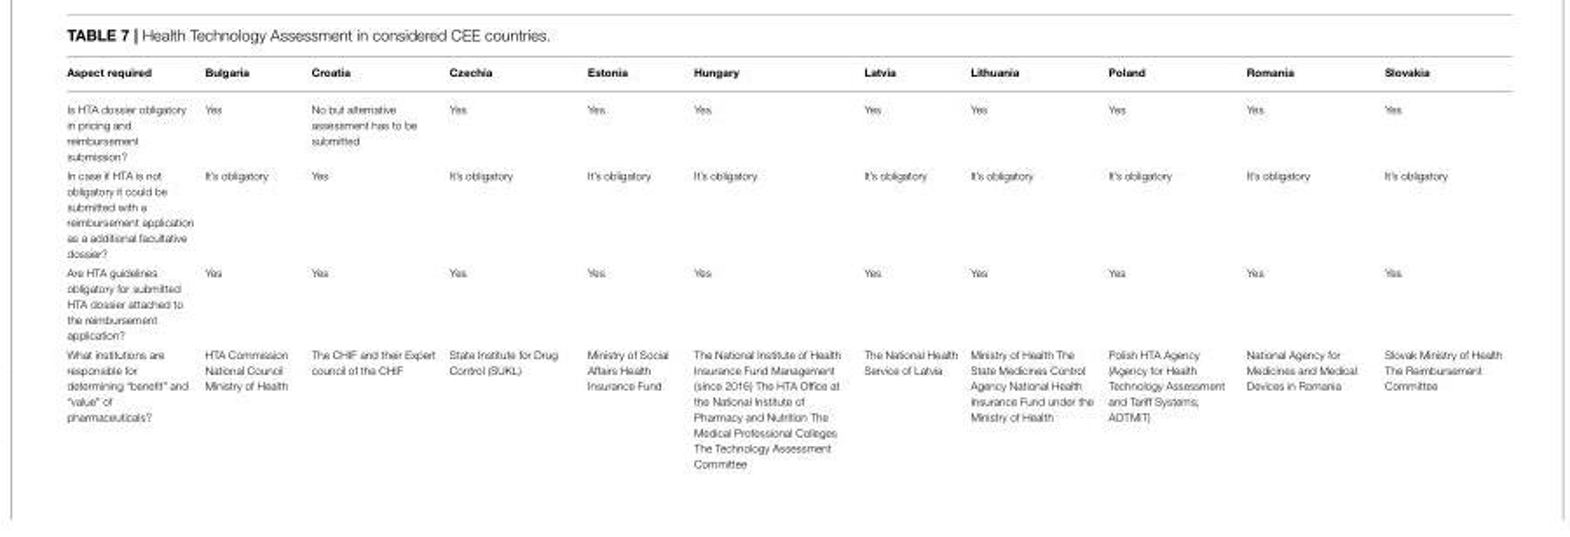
<table><thead><tr><td>Aspect required</td><td>Bulgaria</td><td>Croatia</td><td>Czechia</td><td>Estonia</td><td>Hungary</td><td>Latvia</td><td>Lithuania</td><td>Poland</td><td>Romania</td><td>Slovakia</td></tr></thead><tbody><tr><td>Is HTA dossier obligatory in pricing and reimbursement submission?</td><td>Yes</td><td>No but alternative assessment has to be submitted</td><td>Yes</td><td>Yes</td><td>Yes</td><td>Yes</td><td>Yes</td><td>Yes</td><td>Yes</td><td>Yes</td></tr><tr><td>In case if HTA is not obligatory it could be submitted with a reimbursement application as a additional facultative dossier?</td><td>It’s obligatory</td><td>Yes</td><td>It’s obligatory</td><td>It’s obligatory</td><td>It’s obligatory</td><td>It’s obligatory</td><td>It’s obligatory</td><td>It’s obligatory</td><td>It’s obligatory</td><td>It’s obligatory</td></tr><tr><td>Are HTA guidelines obligatory for submitted HTA dossier attached to the reimbursement application?</td><td>Yes</td><td>Yes</td><td>Yes</td><td>Yes</td><td>Yes</td><td>Yes</td><td>Yes</td><td>Yes</td><td>Yes</td><td>Yes</td></tr><tr><td>What institutions are responsible for determining “benefit” and “value” of pharmaceuticals?</td><td>HTA Commission National Council Ministry of Health</td><td>The CHIF and their Expert council of the CHIF</td><td>State Institute for Drug Control (SUKL)</td><td>Ministry of Social Affairs Health Insurance Fund</td><td>The National Institute of Health Insurance Fund Management (since 2016) The HTA Office at the National Institute of Pharmacy and Nutrition The Medical Professional Colleges The Technology Assessment Committee</td><td>The National Health Service of Latvia</td><td>Ministry of Health The State Medicines Control Agency National Health Insurance Fund under the Ministry of Health</td><td>Polish HTA Agency (Agency for Health Technology Assessment and Tariff Systems; AOTMiT)</td><td>National Agency for Medicines and Medical Devices in Romania</td><td>Slovak Ministry of Health The Reimbursement Committee</td></tr></tbody></table>